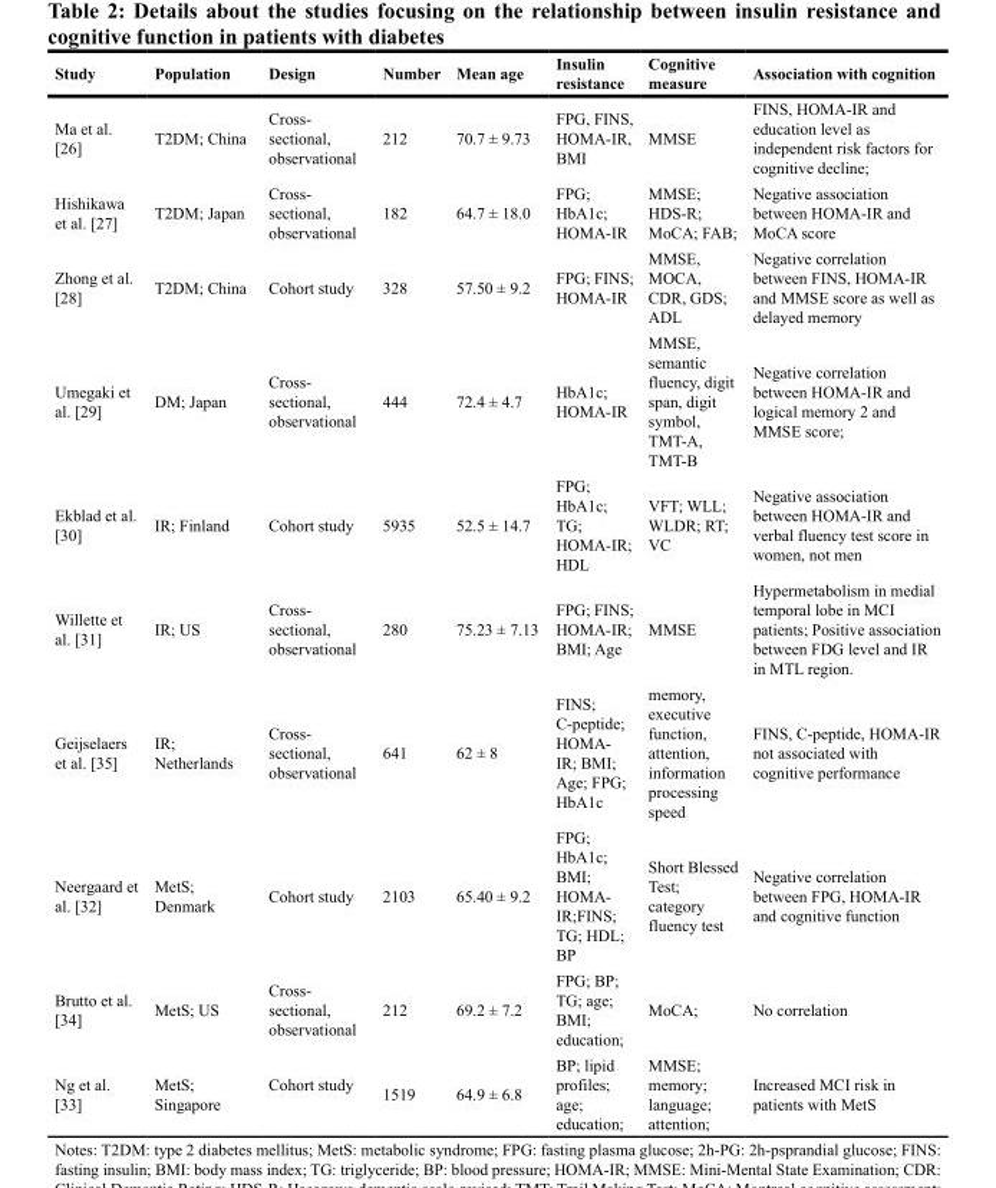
<table><thead><tr><td>Study</td><td>Population</td><td>Design</td><td>Number</td><td>Mean age</td><td>Insulin resistance</td><td>Cognitive measure</td><td>Association with cognition</td></tr></thead><tbody><tr><td>Ma et al. [26]</td><td>T2DM; China</td><td>Cross- sectional, observational</td><td>212</td><td>70.7 ± 9.73</td><td>FPG, FINS, HOMA-IR, BMI</td><td>MMSE</td><td>FINS, HOMA-IR and education level as independent risk factors for cognitive decline;</td></tr><tr><td>Hishikawa et al. [27]</td><td>T2DM; Japan</td><td>Cross- sectional, observational</td><td>182</td><td>64.7 ± 18.0</td><td>FPG; HbA1c; HOMA-IR</td><td>MMSE; HDS-R; MoCA; FAB;</td><td>Negative association between HOMA-IR and MoCA score</td></tr><tr><td>Zhong et al. [28]</td><td>T2DM; China</td><td>Cohort study</td><td>328</td><td>57.50 ± 9.2</td><td>FPG; FINS; HOMA-IR</td><td>MMSE, MOCA, CDR, GDS; ADL</td><td>Negative correlation between FINS, HOMA-IR and MMSE score as well as delayed memory</td></tr><tr><td>Umegaki et al. [29]</td><td>DM; Japan</td><td>Cross- sectional, observational</td><td>444</td><td>72.4 ± 4.7</td><td>HbA1c; HOMA-IR</td><td>MMSE, semantic fluency, digit span, digit symbol, TMT-A, TMT-B</td><td>Negative correlation between HOMA-IR and logical memory 2 and MMSE score;</td></tr><tr><td>Ekblad et al. [30]</td><td>IR; Finland</td><td>Cohort study</td><td>5935</td><td>52.5 ± 14.7</td><td>FPG; HbA1c; TG; HOMA-IR; HDL</td><td>VFT; WLL; WLDR; RT; VC</td><td>Negative association between HOMA-IR and verbal fluency test score in women, not men</td></tr><tr><td>Willette et al. [31]</td><td>IR; US</td><td>Cross- sectional, observational</td><td>280</td><td>75.23 ± 7.13</td><td>FPG; FINS; HOMA-IR; BMI; Age</td><td>MMSE</td><td>Hypermetabolism in medial temporal lobe in MCI patients; Positive association between FDG level and IR in MTL region.</td></tr><tr><td>Geijselaers et al. [35]</td><td>IR; Netherlands</td><td>Cross- sectional, observational</td><td>641</td><td>62 ± 8</td><td>FINS; C-peptide; HOMA- IR; BMI; Age; FPG; HbA1c</td><td>memory, executive function, attention, information processing speed</td><td>FINS, C-peptide, HOMA-IR not associated with cognitive performance</td></tr><tr><td>Neergaard et al. [32]</td><td>MetS; Denmark</td><td>Cohort study</td><td>2103</td><td>65.40 ± 9.2</td><td>FPG; HbA1c; BMI; HOMA- IR;FINS; TG; HDL; BP</td><td>Short Blessed Test; category fluency test</td><td>Negative correlation between FPG, HOMA-IR and cognitive function</td></tr><tr><td>Brutto et al. [34]</td><td>MetS; US</td><td>Cross- sectional, observational</td><td>212</td><td>69.2 ± 7.2</td><td>FPG; BP; TG; age; BMI; education;</td><td>MoCA;</td><td>No correlation</td></tr><tr><td>Ng et al. [33]</td><td>MetS; Singapore</td><td>Cohort study</td><td>1519</td><td>64.9 ± 6.8</td><td>BP; lipid profiles; age; education;</td><td>MMSE; memory; language; attention;</td><td>Increased MCI risk in patients with MetS</td></tr></tbody></table>